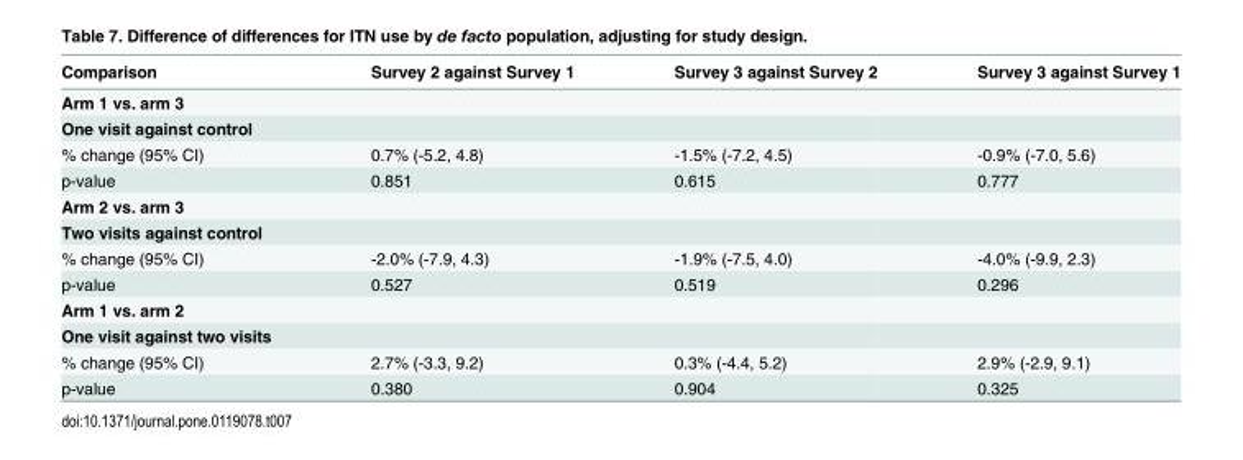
<table><thead><tr><td>Comparison</td><td>Survey 2 against Survey 1</td><td>Survey 3 against Survey 2</td><td>Survey 3 against Survey 1</td></tr></thead><tbody><tr><td colspan="4">Arm 1 vs. arm 3</td></tr><tr><td colspan="4">One visit against control</td></tr><tr><td>% change (95% CI)</td><td>0.7% (-5.2, 4.8)</td><td>-1.5% (-7.2, 4.5)</td><td>-0.9% (-7.0, 5.6)</td></tr><tr><td>p-value</td><td>0.851</td><td>0.615</td><td>0.777</td></tr><tr><td colspan="4">Arm 2 vs. arm 3</td></tr><tr><td colspan="4">Two visits against control</td></tr><tr><td>% change (95% CI)</td><td>-2.0% (-7.9, 4.3)</td><td>-1.9% (-7.5, 4.0)</td><td>-4.0% (-9.9, 2.3)</td></tr><tr><td>p-value</td><td>0.527</td><td>0.519</td><td>0.296</td></tr><tr><td colspan="4">Arm 1 vs. arm 2</td></tr><tr><td colspan="4">One visit against two visits</td></tr><tr><td>% change (95% CI)</td><td>2.7% (-3.3, 9.2)</td><td>0.3% (-4.4, 5.2)</td><td>2.9% (-2.9, 9.1)</td></tr><tr><td>p-value</td><td>0.380</td><td>0.904</td><td>0.325</td></tr></tbody></table>